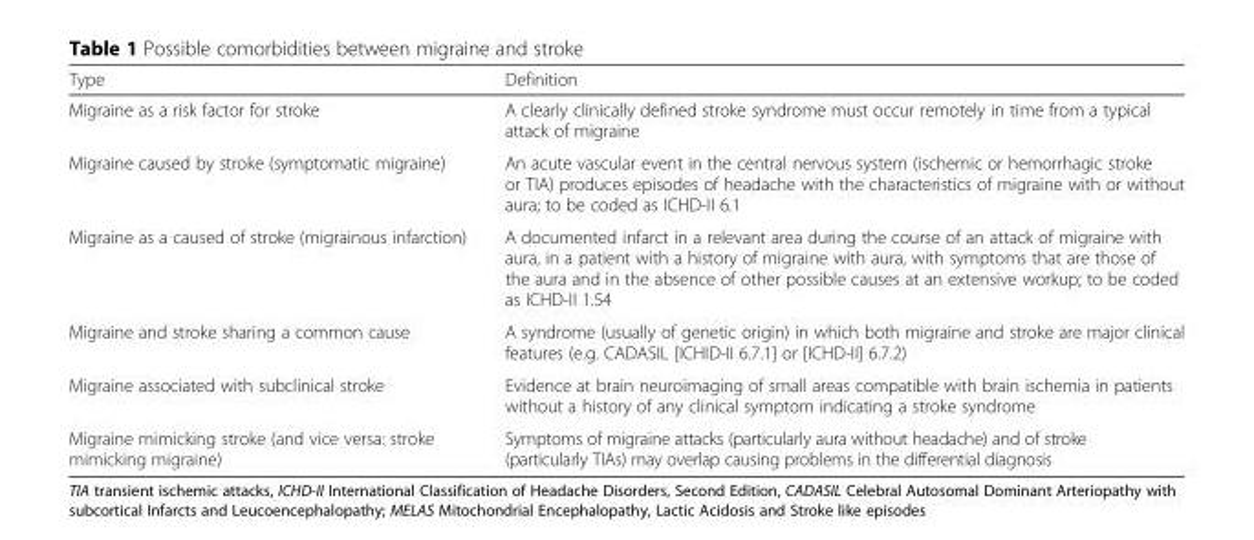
<table><thead><tr><td>Type</td><td>Definition</td></tr></thead><tbody><tr><td>Migraine as a risk factor for stroke</td><td>A clearly clinically defined stroke syndrome must occur remotely in time from a typical attack of migraine</td></tr><tr><td>Migraine caused by stroke (symptomatic migraine)</td><td>An acute vascular event in the central nervous system (ischemic or hemorrhagic stroke or TIA) produces episodes of headache with the characteristics of migraine with or without aura; to be coded as ICHD-II 6.1</td></tr><tr><td>Migraine as a caused of stroke (migrainous infarction)</td><td>A documented infarct in a relevant area during the course of an attack of migraine with aura, in a patient with a history of migraine with aura, with symptoms that are those of the aura and in the absence of other possible causes at an extensive workup; to be coded as ICHD-II 1.54</td></tr><tr><td>Migraine and stroke sharing a common cause</td><td>A syndrome (usually of genetic origin) in which both migraine and stroke are major clinical features (e.g. CADASIL [ICHID-II 6.7.1] or [ICHD-II] 6.7.2)</td></tr><tr><td>Migraine associated with subclinical stroke</td><td>Evidence at brain neuroimaging of small areas compatible with brain ischemia in patients without a history of any clinical symptom indicating a stroke syndrome</td></tr><tr><td>Migraine mimicking stroke (and vice versa: stroke mimicking migraine)</td><td>Symptoms of migraine attacks (particularly aura without headache) and of stroke (particularly TIAs) may overlap causing problems in the differential diagnosis</td></tr></tbody></table>